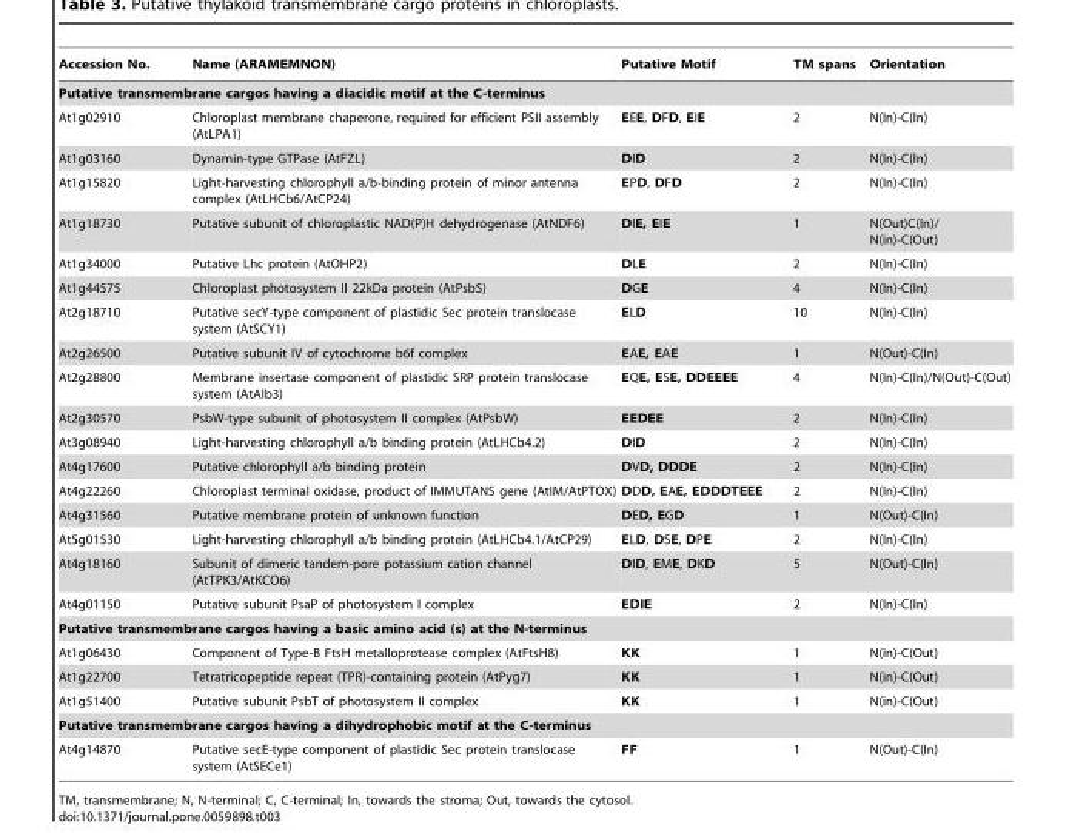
<table><thead><tr><td>Accession No.</td><td>Name (ARAMEMNON)</td><td>Putative Motif</td><td>TM spans</td><td>Orientation</td></tr></thead><tbody><tr><td colspan="5">Putative transmembrane cargos having a diacidic motif at the C-terminus</td></tr><tr><td>At1g02910</td><td>Chloroplast membrane chaperone, required for efficient PSII assembly (AtLPA1)</td><td>EEE, DFD, EIE</td><td>2</td><td>N(In)-C(In)</td></tr><tr><td>At1g03160</td><td>Dynamin-type GTPase (AtFZL)</td><td>DID</td><td>2</td><td>N(In)-C(In)</td></tr><tr><td>At1g15820</td><td>Light-harvesting chlorophyll a/b-binding protein of minor antenna complex (AtLHCb6/AtCP24)</td><td>EPD, DFD</td><td>2</td><td>N(In)-C(In)</td></tr><tr><td>At1g18730</td><td>Putative subunit of chloroplastic NAD(P)H dehydrogenase (AtNDF6)</td><td>DIE, EIE</td><td>1</td><td>N(Out)C(In)/ N(in)-C(Out)</td></tr><tr><td>At1g34000</td><td>Putative Lhc protein (AtOHP2)</td><td>DLE</td><td>2</td><td>N(In)-C(In)</td></tr><tr><td>At1g44575</td><td>Chloroplast photosystem II 22kDa protein (AtPsbS)</td><td>DGE</td><td>4</td><td>N(In)-C(In)</td></tr><tr><td>At2g18710</td><td>Putative secY-type component of plastidic Sec protein translocase system (AtSCY1)</td><td>ELD</td><td>10</td><td>N(In)-C(In)</td></tr><tr><td>At2g26500</td><td>Putative subunit IV of cytochrome b6f complex</td><td>EAE, EAE</td><td>1</td><td>N(Out)-C(In)</td></tr><tr><td>At2g28800</td><td>Membrane insertase component of plastidic SRP protein translocase system (AtAlb3)</td><td>EQE, ESE, DDEEEE</td><td>4</td><td>N(In)-C(In)/N(Out)-C(Out)</td></tr><tr><td>At2g30570</td><td>PsbW-type subunit of photosystem II complex (AtPsbW)</td><td>EEDEE</td><td>2</td><td>N(In)-C(In)</td></tr><tr><td>At3g08940</td><td>Light-harvesting chlorophyll a/b binding protein (AtLHCb4.2)</td><td>DID</td><td>2</td><td>N(In)-C(In)</td></tr><tr><td>At4g17600</td><td>Putative chlorophyll a/b binding protein</td><td>DVD, DDDE</td><td>2</td><td>N(In)-C(In)</td></tr><tr><td>At4g22260</td><td>Chloroplast terminal oxidase, product of IMMUTANS gene (AtIM/AtPTOX)</td><td>DDD, EAE, EDDDTEEE</td><td>2</td><td>N(In)-C(In)</td></tr><tr><td>At4g31560</td><td>Putative membrane protein of unknown function</td><td>DED, EGD</td><td>1</td><td>N(Out)-C(In)</td></tr><tr><td>At5g01530</td><td>Light-harvesting chlorophyll a/b binding protein (AtLHCb4.1/AtCP29)</td><td>ELD, DSE, DPE</td><td>2</td><td>N(In)-C(In)</td></tr><tr><td>At4g18160</td><td>Subunit of dimeric tandem-pore potassium cation channel (AtTPK3/AtKCO6)</td><td>DID, EME, DKD</td><td>5</td><td>N(Out)-C(In)</td></tr><tr><td>At4g01150</td><td>Putative subunit PsaP of photosystem I complex</td><td>EDIE</td><td>2</td><td>N(In)-C(In)</td></tr><tr><td colspan="5">Putative transmembrane cargos having a basic amino acid (s) at the N-terminus</td></tr><tr><td>At1g06430</td><td>Component of Type-B FtsH metalloprotease complex (AtFtsH8)</td><td>KK</td><td>1</td><td>N(in)-C(Out)</td></tr><tr><td>At1g22700</td><td>Tetratricopeptide repeat (TPR)-containing protein (AtPyg7)</td><td>KK</td><td>1</td><td>N(in)-C(Out)</td></tr><tr><td>At1g51400</td><td>Putative subunit PsbT of photosystem II complex</td><td>KK</td><td>1</td><td>N(in)-C(Out)</td></tr><tr><td colspan="5">Putative transmembrane cargos having a dihydrophobic motif at the C-terminus</td></tr><tr><td>At4g14870</td><td>Putative secE-type component of plastidic Sec protein translocase system (AtSECe1)</td><td>FF</td><td>1</td><td>N(Out)-C(In)</td></tr></tbody></table>